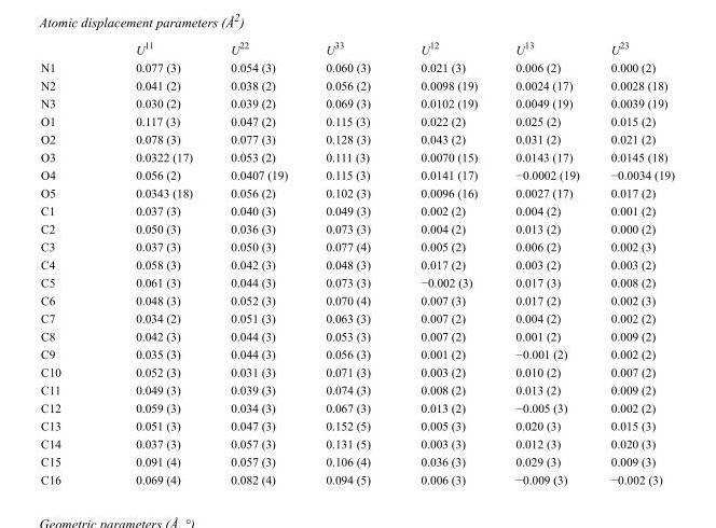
<table><thead><tr><td></td><td>U<sup>11</sup></td><td>U<sup>22</sup></td><td>U<sup>33</sup></td><td>U<sup>12</sup></td><td>U<sup>13</sup></td><td>U<sup>23</sup></td></tr></thead><tbody><tr><td>N1</td><td>0.077 (3)</td><td>0.054 (3)</td><td>0.060 (3)</td><td>0.021 (3)</td><td>0.006 (2)</td><td>0.000 (2)</td></tr><tr><td>N2</td><td>0.041 (2)</td><td>0.038 (2)</td><td>0.056 (2)</td><td>0.0098 (19)</td><td>0.0024 (17)</td><td>0.0028 (18)</td></tr><tr><td>N3</td><td>0.030 (2)</td><td>0.039 (2)</td><td>0.069 (3)</td><td>0.0102 (19)</td><td>0.0049 (19)</td><td>0.0039 (19)</td></tr><tr><td>O1</td><td>0.117 (3)</td><td>0.047 (2)</td><td>0.115 (3)</td><td>0.022 (2)</td><td>0.025 (2)</td><td>0.015 (2)</td></tr><tr><td>O2</td><td>0.078 (3)</td><td>0.077 (3)</td><td>0.128 (3)</td><td>0.043 (2)</td><td>0.031 (2)</td><td>0.021 (2)</td></tr><tr><td>O3</td><td>0.0322 (17)</td><td>0.053 (2)</td><td>0.111 (3)</td><td>0.0070 (15)</td><td>0.0143 (17)</td><td>0.0145 (18)</td></tr><tr><td>O4</td><td>0.056 (2)</td><td>0.0407 (19)</td><td>0.115 (3)</td><td>0.0141 (17)</td><td>−0.0002 (19)</td><td>−0.0034 (19)</td></tr><tr><td>O5</td><td>0.0343 (18)</td><td>0.056 (2)</td><td>0.102 (3)</td><td>0.0096 (16)</td><td>0.0027 (17)</td><td>0.017 (2)</td></tr><tr><td>C1</td><td>0.037 (3)</td><td>0.040 (3)</td><td>0.049 (3)</td><td>0.002 (2)</td><td>0.004 (2)</td><td>0.001 (2)</td></tr><tr><td>C2</td><td>0.050 (3)</td><td>0.036 (3)</td><td>0.073 (3)</td><td>0.004 (2)</td><td>0.013 (2)</td><td>0.000 (2)</td></tr><tr><td>C3</td><td>0.037 (3)</td><td>0.050 (3)</td><td>0.077 (4)</td><td>0.005 (2)</td><td>0.006 (2)</td><td>0.002 (3)</td></tr><tr><td>C4</td><td>0.058 (3)</td><td>0.042 (3)</td><td>0.048 (3)</td><td>0.017 (2)</td><td>0.003 (2)</td><td>0.003 (2)</td></tr><tr><td>C5</td><td>0.061 (3)</td><td>0.044 (3)</td><td>0.073 (3)</td><td>−0.002 (3)</td><td>0.017 (3)</td><td>0.008 (2)</td></tr><tr><td>C6</td><td>0.048 (3)</td><td>0.052 (3)</td><td>0.070 (4)</td><td>0.007 (3)</td><td>0.017 (2)</td><td>0.002 (3)</td></tr><tr><td>C7</td><td>0.034 (2)</td><td>0.051 (3)</td><td>0.063 (3)</td><td>0.007 (2)</td><td>0.004 (2)</td><td>0.002 (2)</td></tr><tr><td>C8</td><td>0.042 (3)</td><td>0.044 (3)</td><td>0.053 (3)</td><td>0.007 (2)</td><td>0.001 (2)</td><td>0.009 (2)</td></tr><tr><td>C9</td><td>0.035 (3)</td><td>0.044 (3)</td><td>0.056 (3)</td><td>0.001 (2)</td><td>−0.001 (2)</td><td>0.002 (2)</td></tr><tr><td>C10</td><td>0.052 (3)</td><td>0.031 (3)</td><td>0.071 (3)</td><td>0.003 (2)</td><td>0.010 (2)</td><td>0.007 (2)</td></tr><tr><td>C11</td><td>0.049 (3)</td><td>0.039 (3)</td><td>0.074 (3)</td><td>0.008 (2)</td><td>0.013 (2)</td><td>0.009 (2)</td></tr><tr><td>C12</td><td>0.059 (3)</td><td>0.034 (3)</td><td>0.067 (3)</td><td>0.013 (2)</td><td>−0.005 (3)</td><td>0.002 (2)</td></tr><tr><td>C13</td><td>0.051 (3)</td><td>0.047 (3)</td><td>0.152 (5)</td><td>0.005 (3)</td><td>0.020 (3)</td><td>0.015 (3)</td></tr><tr><td>C14</td><td>0.037 (3)</td><td>0.057 (3)</td><td>0.131 (5)</td><td>0.003 (3)</td><td>0.012 (3)</td><td>0.020 (3)</td></tr><tr><td>C15</td><td>0.091 (4)</td><td>0.057 (3)</td><td>0.106 (4)</td><td>0.036 (3)</td><td>0.029 (3)</td><td>0.009 (3)</td></tr><tr><td>C16</td><td>0.069 (4)</td><td>0.082 (4)</td><td>0.094 (5)</td><td>0.006 (3)</td><td>−0.009 (3)</td><td>−0.002 (3)</td></tr></tbody></table>